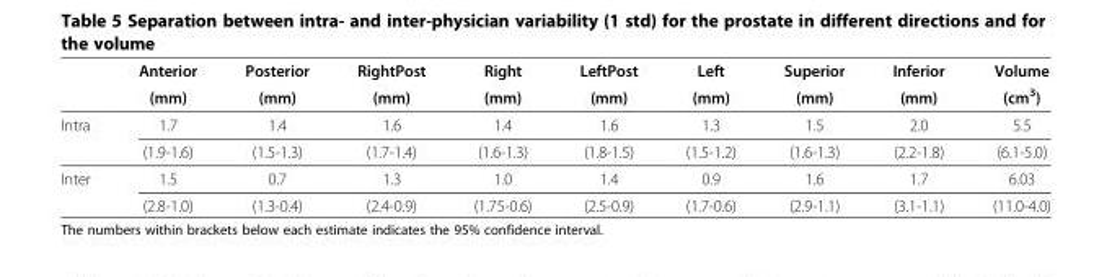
<table><thead><tr><td rowspan="2"></td><td rowspan="2">Anterior (mm)</td><td rowspan="2">Posterior (mm)</td><td rowspan="2">RightPost (mm)</td><td rowspan="2">Right (mm)</td><td rowspan="2">LeftPost (mm)</td><td rowspan="2">Left (mm)</td><td rowspan="2">Superior (mm)</td><td rowspan="2">Inferior (mm)</td><td rowspan="2">Volume (cm<sup>3</sup>)</td></tr><tr></tr></thead><tbody><tr><td rowspan="2">Intra</td><td>1.7</td><td>1.4</td><td>1.6</td><td>1.4</td><td>1.6</td><td>1.3</td><td>1.5</td><td>2.0</td><td>5.5</td></tr><tr><td>(1.9-1.6)</td><td>(1.5-1.3)</td><td>(1.7-1.4)</td><td>(1.6-1.3)</td><td>(1.8-1.5)</td><td>(1.5-1.2)</td><td>(1.6-1.3)</td><td>(2.2-1.8)</td><td>(6.1-5.0)</td></tr><tr><td rowspan="2">Inter</td><td>1.5</td><td>0.7</td><td>1.3</td><td>1.0</td><td>1.4</td><td>0.9</td><td>1.6</td><td>1.7</td><td>6.03</td></tr><tr><td>(2.8-1.0)</td><td>(1.3-0.4)</td><td>(2.4-0.9)</td><td>(1.75-0.6)</td><td>(2.5-0.9)</td><td>(1.7-0.6)</td><td>(2.9-1.1)</td><td>(3.1-1.1)</td><td>(11.0-4.0)</td></tr></tbody></table>